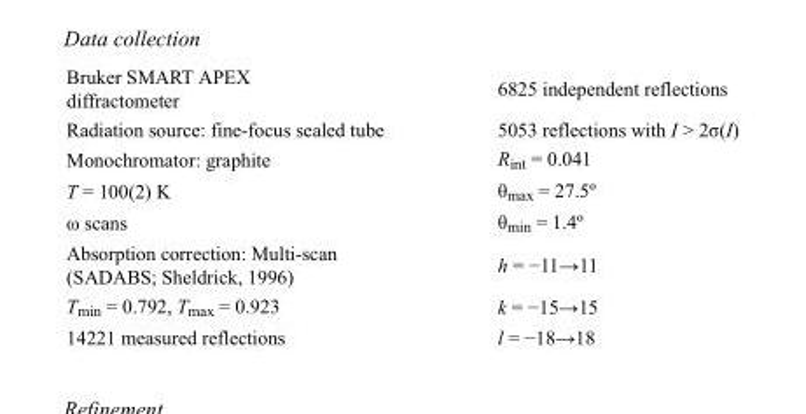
<table><tbody><tr><td>Bruker SMART APEX diffractometer</td><td>6825 independent reflections</td></tr><tr><td>Radiation source: fine-focus sealed tube</td><td>5053 reflections with I &gt; 2σ(I)</td></tr><tr><td>Monochromator: graphite</td><td>R<sub>int</sub> = 0.041</td></tr><tr><td>T = 100(2) K</td><td>θ<sub>max</sub> = 27.5º</td></tr><tr><td>ω scans</td><td>θ<sub>min</sub> = 1.4º</td></tr><tr><td>Absorption correction: Multi-scan (SADABS; Sheldrick, 1996)</td><td>h = −11→11</td></tr><tr><td>T<sub>min</sub> = 0.792, T<sub>max</sub> = 0.923</td><td>k = −15→15</td></tr><tr><td>14221 measured reflections</td><td>l = −18→18</td></tr></tbody></table>